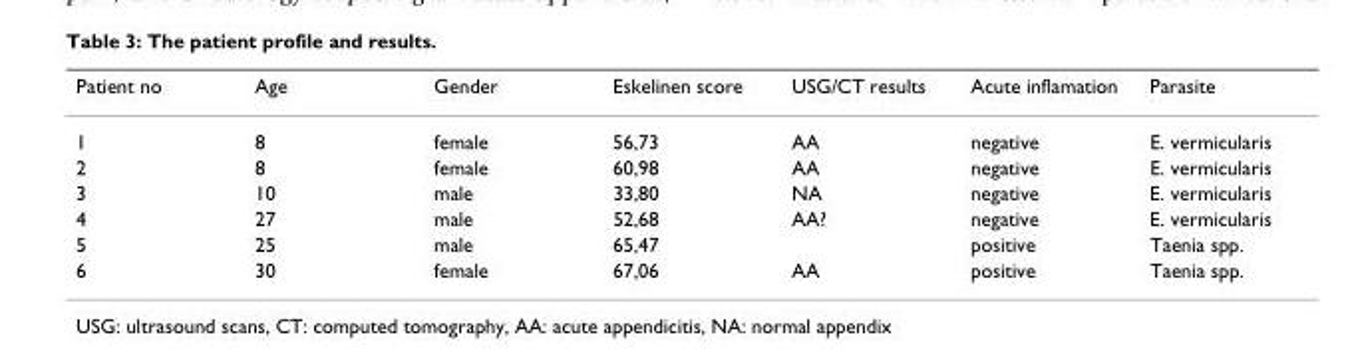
<table><thead><tr><td>Patient no</td><td>Age</td><td>Gender</td><td>Eskelinen score</td><td>USG/CT results</td><td>Acute inflamation</td><td>Parasite</td></tr></thead><tbody><tr><td>1</td><td>8</td><td>female</td><td>56,73</td><td>AA</td><td>negative</td><td>E. vermicularis</td></tr><tr><td>2</td><td>8</td><td>female</td><td>60,98</td><td>AA</td><td>negative</td><td>E. vermicularis</td></tr><tr><td>3</td><td>10</td><td>male</td><td>33,80</td><td>NA</td><td>negative</td><td>E. vermicularis</td></tr><tr><td>4</td><td>27</td><td>male</td><td>52,68</td><td>AA?</td><td>negative</td><td>E. vermicularis</td></tr><tr><td>5</td><td>25</td><td>male</td><td>65,47</td><td></td><td>positive</td><td>Taenia spp.</td></tr><tr><td>6</td><td>30</td><td>female</td><td>67,06</td><td>AA</td><td>positive</td><td>Taenia spp.</td></tr></tbody></table>